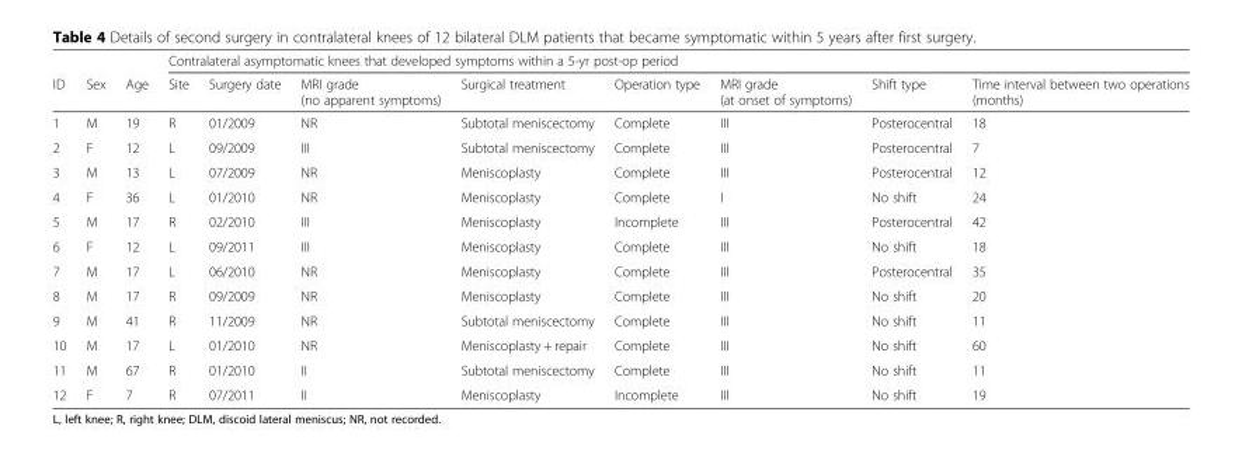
<table><thead><tr><td rowspan="2">ID</td><td rowspan="2">Sex</td><td rowspan="2">Age</td><td colspan="8">Contralateral asymptomatic knees that developed symptoms within a 5-yr post-op period</td></tr><tr><td>Site</td><td>Surgery date</td><td>MRI grade (no apparent symptoms)</td><td>Surgical treatment</td><td>Operation type</td><td>MRI grade (at onset of symptoms)</td><td>Shift type</td><td>Time interval between two operations (months)</td></tr></thead><tbody><tr><td>1</td><td>M</td><td>19</td><td>R</td><td>01/2009</td><td>NR</td><td>Subtotal meniscectomy</td><td>Complete</td><td>III</td><td>Posterocentral</td><td>18</td></tr><tr><td>2</td><td>F</td><td>12</td><td>L</td><td>09/2009</td><td>III</td><td>Subtotal meniscectomy</td><td>Complete</td><td>III</td><td>Posterocentral</td><td>7</td></tr><tr><td>3</td><td>M</td><td>13</td><td>L</td><td>07/2009</td><td>NR</td><td>Meniscoplasty</td><td>Complete</td><td>III</td><td>Posterocentral</td><td>12</td></tr><tr><td>4</td><td>F</td><td>36</td><td>L</td><td>01/2010</td><td>NR</td><td>Meniscoplasty</td><td>Complete</td><td>I</td><td>No shift</td><td>24</td></tr><tr><td>5</td><td>M</td><td>17</td><td>R</td><td>02/2010</td><td>III</td><td>Meniscoplasty</td><td>Incomplete</td><td>III</td><td>Posterocentral</td><td>42</td></tr><tr><td>6</td><td>F</td><td>12</td><td>L</td><td>09/2011</td><td>III</td><td>Meniscoplasty</td><td>Complete</td><td>III</td><td>No shift</td><td>18</td></tr><tr><td>7</td><td>M</td><td>17</td><td>L</td><td>06/2010</td><td>NR</td><td>Meniscoplasty</td><td>Complete</td><td>III</td><td>Posterocentral</td><td>35</td></tr><tr><td>8</td><td>M</td><td>17</td><td>R</td><td>09/2009</td><td>NR</td><td>Meniscoplasty</td><td>Complete</td><td>III</td><td>No shift</td><td>20</td></tr><tr><td>9</td><td>M</td><td>41</td><td>R</td><td>11/2009</td><td>NR</td><td>Subtotal meniscectomy</td><td>Complete</td><td>III</td><td>No shift</td><td>11</td></tr><tr><td>10</td><td>M</td><td>17</td><td>L</td><td>01/2010</td><td>NR</td><td>Meniscoplasty + repair</td><td>Complete</td><td>III</td><td>No shift</td><td>60</td></tr><tr><td>11</td><td>M</td><td>67</td><td>R</td><td>01/2010</td><td>II</td><td>Subtotal meniscectomy</td><td>Complete</td><td>III</td><td>No shift</td><td>11</td></tr><tr><td>12</td><td>F</td><td>7</td><td>R</td><td>07/2011</td><td>II</td><td>Meniscoplasty</td><td>Incomplete</td><td>III</td><td>No shift</td><td>19</td></tr></tbody></table>